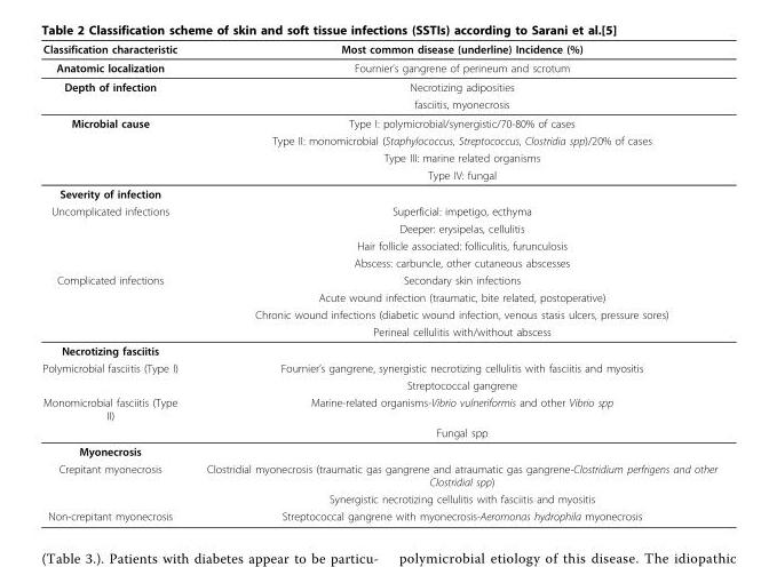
<table><thead><tr><td>Classification characteristic</td><td>Most common disease (underline) Incidence (%)</td></tr></thead><tbody><tr><td>Anatomic localization</td><td>Fournier’s gangrene of perineum and scrotum</td></tr><tr><td rowspan="2">Depth of infection</td><td>Necrotizing adiposities</td></tr><tr><td>fasciitis, myonecrosis</td></tr><tr><td rowspan="4">Microbial cause</td><td>Type I: polymicrobial/synergistic/70-80% of cases</td></tr><tr><td>Type II: monomicrobial (Staphylococcus, Streptococcus, Clostridia spp)/20% of cases</td></tr><tr><td>Type III: marine related organisms</td></tr><tr><td>Type IV: fungal</td></tr><tr><td colspan="2">Severity of infection</td></tr><tr><td rowspan="4">Uncomplicated infections</td><td>Superficial: impetigo, ecthyma</td></tr><tr><td>Deeper: erysipelas, cellulitis</td></tr><tr><td>Hair follicle associated: folliculitis, furunculosis</td></tr><tr><td>Abscess: carbuncle, other cutaneous abscesses</td></tr><tr><td rowspan="4">Complicated infections</td><td>Secondary skin infections</td></tr><tr><td>Acute wound infection (traumatic, bite related, postoperative)</td></tr><tr><td>Chronic wound infections (diabetic wound infection, venous stasis ulcers, pressure sores)</td></tr><tr><td>Perineal cellulitis with/without abscess</td></tr><tr><td colspan="2">Necrotizing fasciitis</td></tr><tr><td rowspan="2">Polymicrobial fasciitis (Type I)</td><td>Fournier’s gangrene, synergistic necrotizing cellulitis with fasciitis and myositis</td></tr><tr><td>Streptococcal gangrene</td></tr><tr><td rowspan="2">Monomicrobial fasciitis (Type II)</td><td>Marine-related organisms-Vibrio vulneriformis and other Vibrio spp</td></tr><tr><td>Fungal spp</td></tr><tr><td colspan="2">Myonecrosis</td></tr><tr><td rowspan="2">Crepitant myonecrosis</td><td>Clostridial myonecrosis (traumatic gas gangrene and atraumatic gas gangrene-Clostridium perfrigens and other Clostridial spp)</td></tr><tr><td>Synergistic necrotizing cellulitis with fasciitis and myositis</td></tr><tr><td>Non-crepitant myonecrosis</td><td>Streptococcal gangrene with myonecrosis-Aeromonas hydrophila myonecrosis</td></tr></tbody></table>